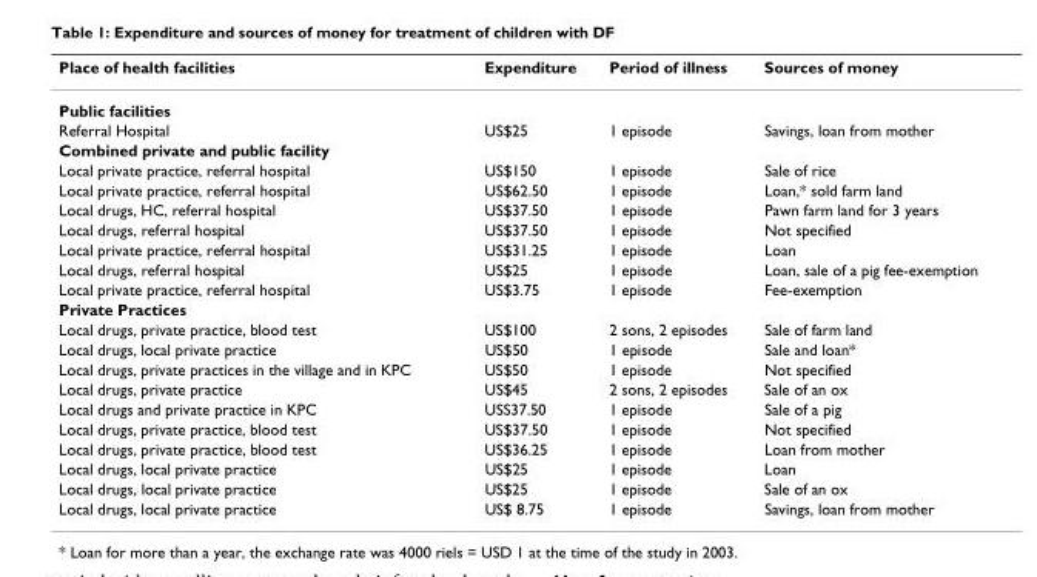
<table><thead><tr><td>Place of health facilities</td><td>Expenditure</td><td>Period of illness</td><td>Sources of money</td></tr></thead><tbody><tr><td colspan="4">Public facilities</td></tr><tr><td>Referral Hospital</td><td>US$25</td><td>1 episode</td><td>Savings, loan from mother</td></tr><tr><td colspan="4">Combined private and public facility</td></tr><tr><td>Local private practice, referral hospital</td><td>US$150</td><td>1 episode</td><td>Sale of rice</td></tr><tr><td>Local private practice, referral hospital</td><td>US$62.50</td><td>1 episode</td><td>Loan,* sold farm land</td></tr><tr><td>Local drugs, HC, referral hospital</td><td>US$37.50</td><td>1 episode</td><td>Pawn farm land for 3 years</td></tr><tr><td>Local drugs, referral hospital</td><td>US$37.50</td><td>1 episode</td><td>Not specified</td></tr><tr><td>Local private practice, referral hospital</td><td>US$31.25</td><td>1 episode</td><td>Loan</td></tr><tr><td>Local drugs, referral hospital</td><td>US$25</td><td>1 episode</td><td>Loan, sale of a pig fee-exemption</td></tr><tr><td>Local private practice, referral hospital</td><td>US$3.75</td><td>1 episode</td><td>Fee-exemption</td></tr><tr><td colspan="4">Private Practices</td></tr><tr><td>Local drugs, private practice, blood test</td><td>US$100</td><td>2 sons, 2 episodes</td><td>Sale of farm land</td></tr><tr><td>Local drugs, local private practice</td><td>US$50</td><td>1 episode</td><td>Sale and loan*</td></tr><tr><td>Local drugs, private practices in the village and in KPC</td><td>US$50</td><td>1 episode</td><td>Not specified</td></tr><tr><td>Local drugs, private practice</td><td>US$45</td><td>2 sons, 2 episodes</td><td>Sale of an ox</td></tr><tr><td>Local drugs and private practice in KPC</td><td>USS37.50</td><td>1 episode</td><td>Sale of a pig</td></tr><tr><td>Local drugs, private practice, blood test</td><td>US$37.50</td><td>1 episode</td><td>Not specified</td></tr><tr><td>Local drugs, private practice, blood test</td><td>US$36.25</td><td>1 episode</td><td>Loan from mother</td></tr><tr><td>Local drugs, local private practice</td><td>US$25</td><td>1 episode</td><td>Loan</td></tr><tr><td>Local drugs, local private practice</td><td>US$25</td><td>1 episode</td><td>Sale of an ox</td></tr><tr><td>Local drugs, local private practice</td><td>US$ 8.75</td><td>1 episode</td><td>Savings, loan from mother</td></tr></tbody></table>